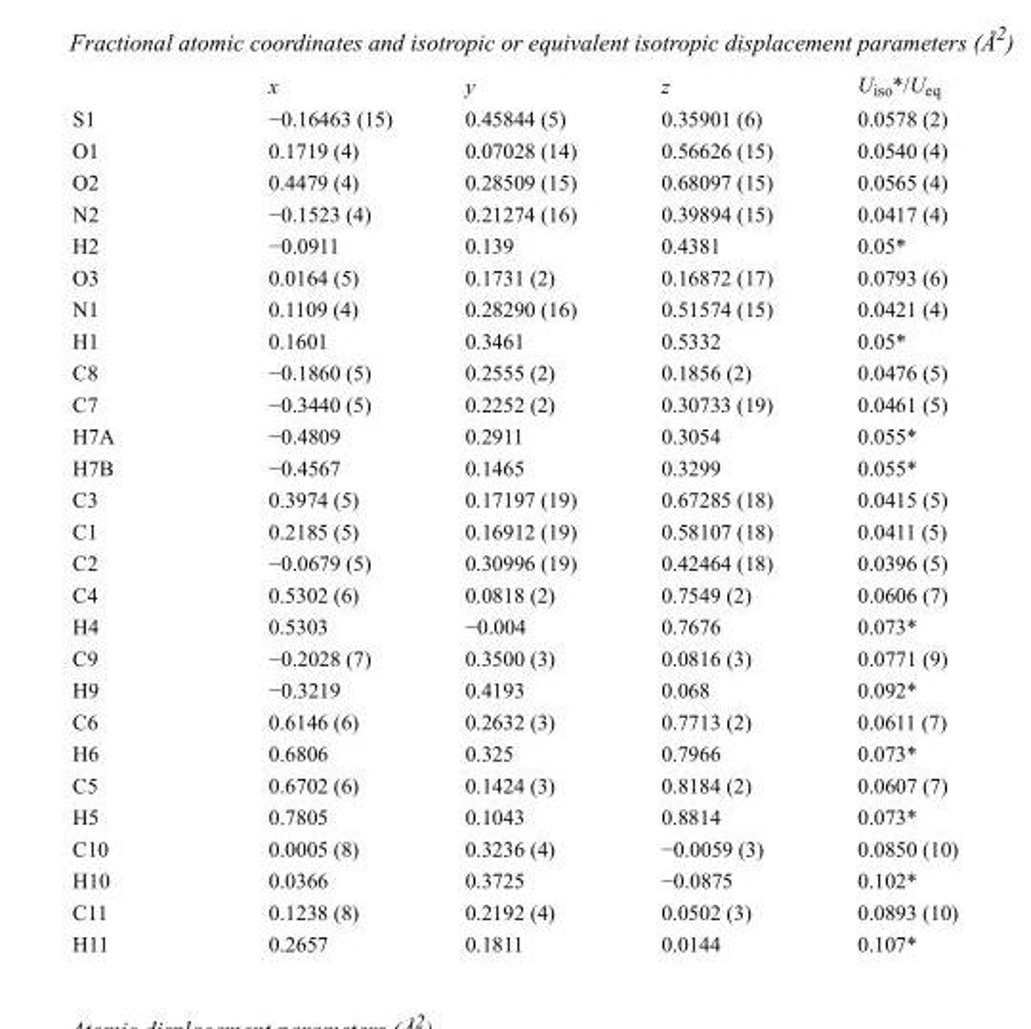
<table><thead><tr><td></td><td>x</td><td>y</td><td>z</td><td>U<sub>iso</sub>*/U<sub>eq</sub></td></tr></thead><tbody><tr><td>S1</td><td>−0.16463 (15)</td><td>0.45844 (5)</td><td>0.35901 (6)</td><td>0.0578 (2)</td></tr><tr><td>O1</td><td>0.1719 (4)</td><td>0.07028 (14)</td><td>0.56626 (15)</td><td>0.0540 (4)</td></tr><tr><td>O2</td><td>0.4479 (4)</td><td>0.28509 (15)</td><td>0.68097 (15)</td><td>0.0565 (4)</td></tr><tr><td>N2</td><td>−0.1523 (4)</td><td>0.21274 (16)</td><td>0.39894 (15)</td><td>0.0417 (4)</td></tr><tr><td>H2</td><td>−0.0911</td><td>0.139</td><td>0.4381</td><td>0.05*</td></tr><tr><td>O3</td><td>0.0164 (5)</td><td>0.1731 (2)</td><td>0.16872 (17)</td><td>0.0793 (6)</td></tr><tr><td>N1</td><td>0.1109 (4)</td><td>0.28290 (16)</td><td>0.51574 (15)</td><td>0.0421 (4)</td></tr><tr><td>H1</td><td>0.1601</td><td>0.3461</td><td>0.5332</td><td>0.05*</td></tr><tr><td>C8</td><td>−0.1860 (5)</td><td>0.2555 (2)</td><td>0.1856 (2)</td><td>0.0476 (5)</td></tr><tr><td>C7</td><td>−0.3440 (5)</td><td>0.2252 (2)</td><td>0.30733 (19)</td><td>0.0461 (5)</td></tr><tr><td>H7A</td><td>−0.4809</td><td>0.2911</td><td>0.3054</td><td>0.055*</td></tr><tr><td>H7B</td><td>−0.4567</td><td>0.1465</td><td>0.3299</td><td>0.055*</td></tr><tr><td>C3</td><td>0.3974 (5)</td><td>0.17197 (19)</td><td>0.67285 (18)</td><td>0.0415 (5)</td></tr><tr><td>C1</td><td>0.2185 (5)</td><td>0.16912 (19)</td><td>0.58107 (18)</td><td>0.0411 (5)</td></tr><tr><td>C2</td><td>−0.0679 (5)</td><td>0.30996 (19)</td><td>0.42464 (18)</td><td>0.0396 (5)</td></tr><tr><td>C4</td><td>0.5302 (6)</td><td>0.0818 (2)</td><td>0.7549 (2)</td><td>0.0606 (7)</td></tr><tr><td>H4</td><td>0.5303</td><td>−0.004</td><td>0.7676</td><td>0.073*</td></tr><tr><td>C9</td><td>−0.2028 (7)</td><td>0.3500 (3)</td><td>0.0816 (3)</td><td>0.0771 (9)</td></tr><tr><td>H9</td><td>−0.3219</td><td>0.4193</td><td>0.068</td><td>0.092*</td></tr><tr><td>C6</td><td>0.6146 (6)</td><td>0.2632 (3)</td><td>0.7713 (2)</td><td>0.0611 (7)</td></tr><tr><td>H6</td><td>0.6806</td><td>0.325</td><td>0.7966</td><td>0.073*</td></tr><tr><td>C5</td><td>0.6702 (6)</td><td>0.1424 (3)</td><td>0.8184 (2)</td><td>0.0607 (7)</td></tr><tr><td>H5</td><td>0.7805</td><td>0.1043</td><td>0.8814</td><td>0.073*</td></tr><tr><td>C10</td><td>0.0005 (8)</td><td>0.3236 (4)</td><td>−0.0059 (3)</td><td>0.0850 (10)</td></tr><tr><td>H10</td><td>0.0366</td><td>0.3725</td><td>−0.0875</td><td>0.102*</td></tr><tr><td>C11</td><td>0.1238 (8)</td><td>0.2192 (4)</td><td>0.0502 (3)</td><td>0.0893 (10)</td></tr><tr><td>H11</td><td>0.2657</td><td>0.1811</td><td>0.0144</td><td>0.107*</td></tr></tbody></table>